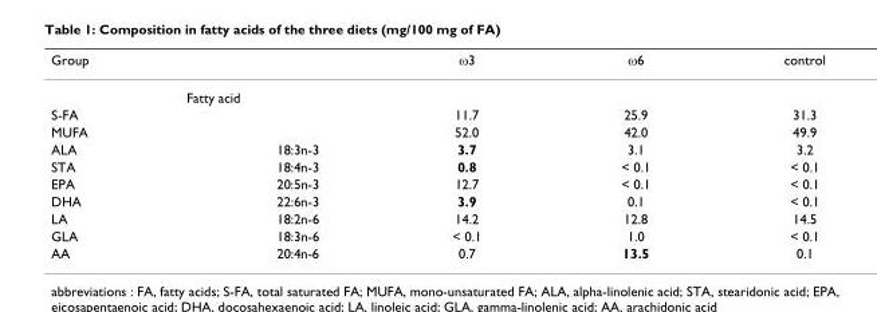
<table><thead><tr><td>Group</td><td></td><td>ω3</td><td>ω6</td><td>control</td></tr></thead><tbody><tr><td colspan="5">Fatty acid</td></tr><tr><td>S-FA</td><td></td><td>11.7</td><td>25.9</td><td>31.3</td></tr><tr><td>MUFA</td><td></td><td>52.0</td><td>42.0</td><td>49.9</td></tr><tr><td>ALA</td><td>18:3n-3</td><td>3.7</td><td>3.1</td><td>3.2</td></tr><tr><td>STA</td><td>18:4n-3</td><td>0.8</td><td>&lt; 0.1</td><td>&lt; 0.1</td></tr><tr><td>EPA</td><td>20:5n-3</td><td>12.7</td><td>&lt; 0.1</td><td>&lt; 0.1</td></tr><tr><td>DHA</td><td>22:6n-3</td><td>3.9</td><td>0.1</td><td>&lt; 0.1</td></tr><tr><td>LA</td><td>18:2n-6</td><td>14.2</td><td>12.8</td><td>14.5</td></tr><tr><td>GLA</td><td>18:3n-6</td><td>&lt; 0.1</td><td>1.0</td><td>&lt; 0.1</td></tr><tr><td>AA</td><td>20:4n-6</td><td>0.7</td><td>13.5</td><td>0.1</td></tr></tbody></table>